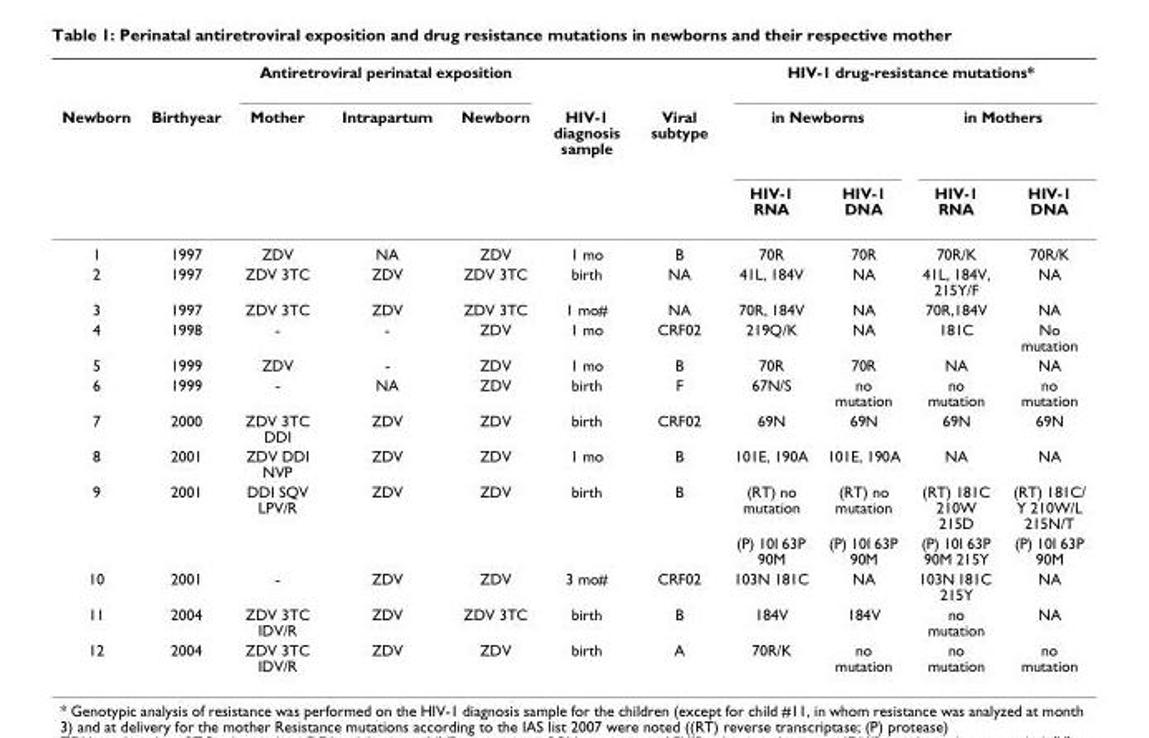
<table><thead><tr><td rowspan="3">Newborn</td><td rowspan="3">Birthyear</td><td colspan="3">Antiretroviral perinatal exposition</td><td rowspan="3">HIV-1 diagnosis sample</td><td rowspan="3">Viral subtype</td><td colspan="4">HIV-1 drug-resistance mutations*</td></tr><tr><td rowspan="2">Mother</td><td rowspan="2">Intrapartum</td><td rowspan="2">Newborn</td><td colspan="2">in Newborns</td><td colspan="2">in Mothers</td></tr><tr><td>HIV-1 RNA</td><td>HIV-1 DNA</td><td>HIV-1 RNA</td><td>HIV-1 DNA</td></tr></thead><tbody><tr><td>1</td><td>1997</td><td>ZDV</td><td>NA</td><td>ZDV</td><td>1 mo</td><td>B</td><td>70R</td><td>70R</td><td>70R/K</td><td>70R/K</td></tr><tr><td>2</td><td>1997</td><td>ZDV 3TC</td><td>ZDV</td><td>ZDV 3TC</td><td>birth</td><td>NA</td><td>41L, 184V</td><td>NA</td><td>41L, 184V, 215Y/F</td><td>NA</td></tr><tr><td>3</td><td>1997</td><td>ZDV 3TC</td><td>ZDV</td><td>ZDV 3TC</td><td>1 mo#</td><td>NA</td><td>70R, 184V</td><td>NA</td><td>70R,184V</td><td>NA</td></tr><tr><td>4</td><td>1998</td><td>-</td><td>-</td><td>ZDV</td><td>1 mo</td><td>CRF02</td><td>219Q/K</td><td>NA</td><td>181C</td><td>No mutation</td></tr><tr><td>5</td><td>1999</td><td>ZDV</td><td>-</td><td>ZDV</td><td>1 mo</td><td>B</td><td>70R</td><td>70R</td><td>NA</td><td>NA</td></tr><tr><td>6</td><td>1999</td><td>-</td><td>NA</td><td>ZDV</td><td>birth</td><td>F</td><td>67N/S</td><td>no mutation</td><td>no mutation</td><td>no mutation</td></tr><tr><td>7</td><td>2000</td><td>ZDV 3TC DDI</td><td>ZDV</td><td>ZDV</td><td>birth</td><td>CRF02</td><td>69N</td><td>69N</td><td>69N</td><td>69N</td></tr><tr><td>8</td><td>2001</td><td>ZDV DDI NVP</td><td>ZDV</td><td>ZDV</td><td>1 mo</td><td>B</td><td>101E, 190A</td><td>101E, 190A</td><td>NA</td><td>NA</td></tr><tr><td rowspan="2">9</td><td>2001</td><td>DDI SQV LPV/R</td><td>ZDV</td><td>ZDV</td><td>birth</td><td>B</td><td>(RT) no mutation</td><td>(RT) no mutation</td><td>(RT) 181C 210W 215D</td><td>(RT) 181C/ Y 210W/L 215N/T</td></tr><tr><td></td><td></td><td></td><td></td><td></td><td></td><td>(P) 10I 63P 90M</td><td>(P) 10I 63P 90M</td><td>(P) 10I 63P 90M 215Y</td><td>(P) 10I 63P 90M</td></tr><tr><td>10</td><td>2001</td><td>-</td><td>ZDV</td><td>ZDV</td><td>3 mo#</td><td>CRF02</td><td>103N 181C</td><td>NA</td><td>103N 181C 215Y</td><td>NA</td></tr><tr><td>11</td><td>2004</td><td>ZDV 3TC IDV/R</td><td>ZDV</td><td>ZDV 3TC</td><td>birth</td><td>B</td><td>184V</td><td>184V</td><td>no mutation</td><td>NA</td></tr><tr><td>12</td><td>2004</td><td>ZDV 3TC IDV/R</td><td>ZDV</td><td>ZDV</td><td>birth</td><td>A</td><td>70R/K</td><td>no mutation</td><td>no mutation</td><td>no mutation</td></tr></tbody></table>